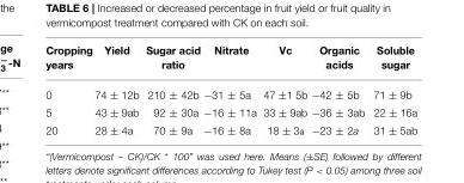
<table><thead><tr><td>Cropping years</td><td>Yield</td><td>Sugar acid ratio</td><td>Nitrate</td><td>Vc</td><td>Organic acids</td><td>Soluble sugar</td></tr></thead><tbody><tr><td>0</td><td>74 ± 12b</td><td>210 ± 42b</td><td>−31 ± 5a</td><td>47 ±1 5b</td><td>−42 ± 5b</td><td>71 ± 9b</td></tr><tr><td>5</td><td>43 ± 9ab</td><td>92 ± 30a</td><td>−16 ± 11a</td><td>33 ± 9ab</td><td>−36 ± 3ab</td><td>22 ± 16a</td></tr><tr><td>20</td><td>28 ± 4a</td><td>70 ± 9a</td><td>−16 ± 8a</td><td>18 ± 3a</td><td>−23 ± 2a</td><td>31 ± 5ab</td></tr></tbody></table>